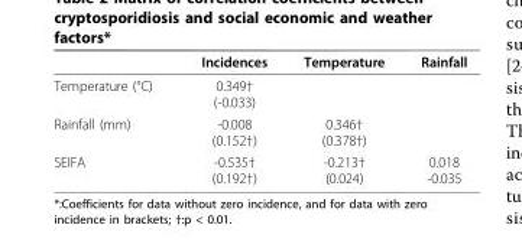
<table><thead><tr><td></td><td>Incidences</td><td>Temperature</td><td>Rainfall</td></tr></thead><tbody><tr><td>Temperature (°C)</td><td>0.349† (-0.033)</td><td></td><td></td></tr><tr><td>Rainfall (mm)</td><td>-0.008 (0.152†)</td><td>0.346† (0.378†)</td><td></td></tr><tr><td>SEIFA</td><td>-0.535† (0.192†)</td><td>-0.213† (0.024)</td><td>0.018 -0.035</td></tr></tbody></table>